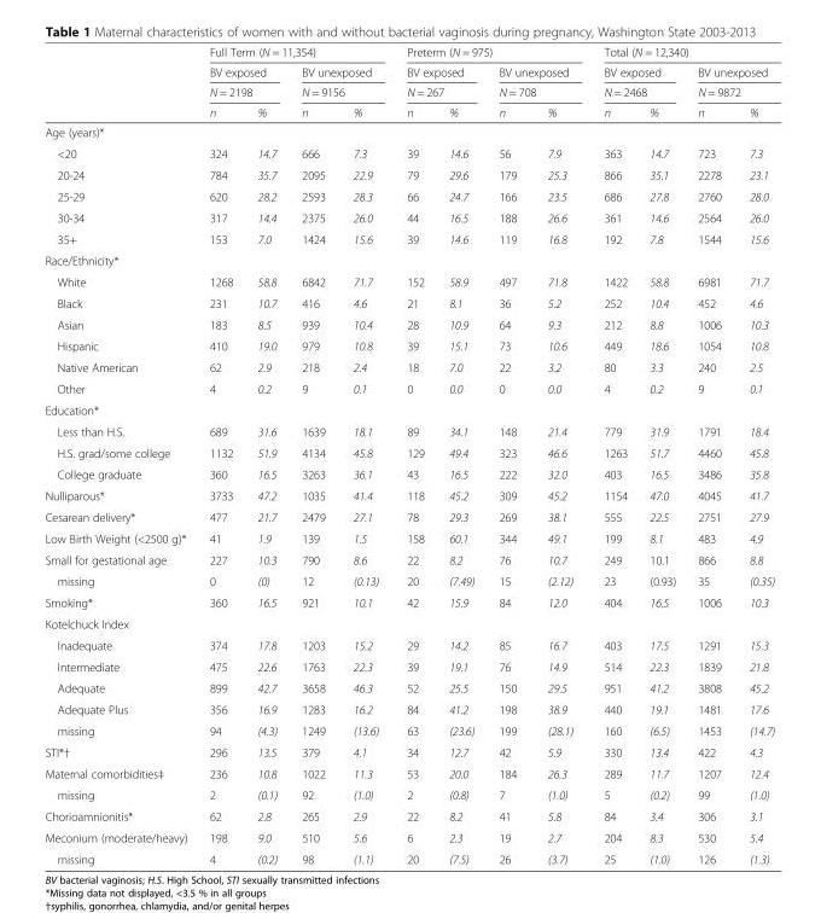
<table><thead><tr><td rowspan="4"></td><td colspan="4">Full Term (N = 11,354)</td><td colspan="4">Preterm (N = 975)</td><td colspan="4">Total (N = 12,340)</td></tr><tr><td rowspan="2" colspan="2">BV exposed N = 2198</td><td rowspan="2" colspan="2">BV unexposed N = 9156</td><td rowspan="2" colspan="2">BV exposed N = 267</td><td rowspan="2" colspan="2">BV unexposed N = 708</td><td rowspan="2" colspan="2">BV exposed N = 2468</td><td rowspan="2" colspan="2">BV unexposed N = 9872</td></tr><tr></tr><tr><td>n</td><td>%</td><td>n</td><td>%</td><td>n</td><td>%</td><td>n</td><td>%</td><td>n</td><td>%</td><td>n</td><td>%</td></tr></thead><tbody><tr><td colspan="13">Age (years)*</td></tr><tr><td>&lt;20</td><td>324</td><td>14.7</td><td>666</td><td>7.3</td><td>39</td><td>14.6</td><td>56</td><td>7.9</td><td>363</td><td>14.7</td><td>723</td><td>7.3</td></tr><tr><td>20-24</td><td>784</td><td>35.7</td><td>2095</td><td>22.9</td><td>79</td><td>29.6</td><td>179</td><td>25.3</td><td>866</td><td>35.1</td><td>2278</td><td>23.1</td></tr><tr><td>25-29</td><td>620</td><td>28.2</td><td>2593</td><td>28.3</td><td>66</td><td>24.7</td><td>166</td><td>23.5</td><td>686</td><td>27.8</td><td>2760</td><td>28.0</td></tr><tr><td>30-34</td><td>317</td><td>14.4</td><td>2375</td><td>26.0</td><td>44</td><td>16.5</td><td>188</td><td>26.6</td><td>361</td><td>14.6</td><td>2564</td><td>26.0</td></tr><tr><td>35+</td><td>153</td><td>7.0</td><td>1424</td><td>15.6</td><td>39</td><td>14.6</td><td>119</td><td>16.8</td><td>192</td><td>7.8</td><td>1544</td><td>15.6</td></tr><tr><td colspan="13">Race/Ethnicity*</td></tr><tr><td>White</td><td>1268</td><td>58.8</td><td>6842</td><td>71.7</td><td>152</td><td>58.9</td><td>497</td><td>71.8</td><td>1422</td><td>58.8</td><td>6981</td><td>71.7</td></tr><tr><td>Black</td><td>231</td><td>10.7</td><td>416</td><td>4.6</td><td>21</td><td>8.1</td><td>36</td><td>5.2</td><td>252</td><td>10.4</td><td>452</td><td>4.6</td></tr><tr><td>Asian</td><td>183</td><td>8.5</td><td>939</td><td>10.4</td><td>28</td><td>10.9</td><td>64</td><td>9.3</td><td>212</td><td>8.8</td><td>1006</td><td>10.3</td></tr><tr><td>Hispanic</td><td>410</td><td>19.0</td><td>979</td><td>10.8</td><td>39</td><td>15.1</td><td>73</td><td>10.6</td><td>449</td><td>18.6</td><td>1054</td><td>10.8</td></tr><tr><td>Native American</td><td>62</td><td>2.9</td><td>218</td><td>2.4</td><td>18</td><td>7.0</td><td>22</td><td>3.2</td><td>80</td><td>3.3</td><td>240</td><td>2.5</td></tr><tr><td>Other</td><td>4</td><td>0.2</td><td>9</td><td>0.1</td><td>0</td><td>0.0</td><td>0</td><td>0.0</td><td>4</td><td>0.2</td><td>9</td><td>0.1</td></tr><tr><td colspan="13">Education*</td></tr><tr><td>Less than H.S.</td><td>689</td><td>31.6</td><td>1639</td><td>18.1</td><td>89</td><td>34.1</td><td>148</td><td>21.4</td><td>779</td><td>31.9</td><td>1791</td><td>18.4</td></tr><tr><td>H.S. grad/some college</td><td>1132</td><td>51.9</td><td>4134</td><td>45.8</td><td>129</td><td>49.4</td><td>323</td><td>46.6</td><td>1263</td><td>51.7</td><td>4460</td><td>45.8</td></tr><tr><td>College graduate</td><td>360</td><td>16.5</td><td>3263</td><td>36.1</td><td>43</td><td>16.5</td><td>222</td><td>32.0</td><td>403</td><td>16.5</td><td>3486</td><td>35.8</td></tr><tr><td>Nulliparous*</td><td>3733</td><td>47.2</td><td>1035</td><td>41.4</td><td>118</td><td>45.2</td><td>309</td><td>45.2</td><td>1154</td><td>47.0</td><td>4045</td><td>41.7</td></tr><tr><td>Cesarean delivery*</td><td>477</td><td>21.7</td><td>2479</td><td>27.1</td><td>78</td><td>29.3</td><td>269</td><td>38.1</td><td>555</td><td>22.5</td><td>2751</td><td>27.9</td></tr><tr><td>Low Birth Weight (&lt;2500 g)*</td><td>41</td><td>1.9</td><td>139</td><td>1.5</td><td>158</td><td>60.1</td><td>344</td><td>49.1</td><td>199</td><td>8.1</td><td>483</td><td>4.9</td></tr><tr><td>Small for gestational age</td><td>227</td><td>10.3</td><td>790</td><td>8.6</td><td>22</td><td>8.2</td><td>76</td><td>10.7</td><td>249</td><td>10.1</td><td>866</td><td>8.8</td></tr><tr><td>missing</td><td>0</td><td>(0)</td><td>12</td><td>(0.13)</td><td>20</td><td>(7.49)</td><td>15</td><td>(2.12)</td><td>23</td><td>(0.93)</td><td>35</td><td>(0.35)</td></tr><tr><td>Smoking*</td><td>360</td><td>16.5</td><td>921</td><td>10.1</td><td>42</td><td>15.9</td><td>84</td><td>12.0</td><td>404</td><td>16.5</td><td>1006</td><td>10.3</td></tr><tr><td colspan="13">Kotelchuck Index</td></tr><tr><td>Inadequate</td><td>374</td><td>17.8</td><td>1203</td><td>15.2</td><td>29</td><td>14.2</td><td>85</td><td>16.7</td><td>403</td><td>17.5</td><td>1291</td><td>15.3</td></tr><tr><td>Intermediate</td><td>475</td><td>22.6</td><td>1763</td><td>22.3</td><td>39</td><td>19.1</td><td>76</td><td>14.9</td><td>514</td><td>22.3</td><td>1839</td><td>21.8</td></tr><tr><td>Adequate</td><td>899</td><td>42.7</td><td>3658</td><td>46.3</td><td>52</td><td>25.5</td><td>150</td><td>29.5</td><td>951</td><td>41.2</td><td>3808</td><td>45.2</td></tr><tr><td>Adequate Plus</td><td>356</td><td>16.9</td><td>1283</td><td>16.2</td><td>84</td><td>41.2</td><td>198</td><td>38.9</td><td>440</td><td>19.1</td><td>1481</td><td>17.6</td></tr><tr><td>missing</td><td>94</td><td>(4.3)</td><td>1249</td><td>(13.6)</td><td>63</td><td>(23.6)</td><td>199</td><td>(28.1)</td><td>160</td><td>(6.5)</td><td>1453</td><td>(14.7)</td></tr><tr><td>STI*†</td><td>296</td><td>13.5</td><td>379</td><td>4.1</td><td>34</td><td>12.7</td><td>42</td><td>5.9</td><td>330</td><td>13.4</td><td>422</td><td>4.3</td></tr><tr><td>Maternal comorbidities‡</td><td>236</td><td>10.8</td><td>1022</td><td>11.3</td><td>53</td><td>20.0</td><td>184</td><td>26.3</td><td>289</td><td>11.7</td><td>1207</td><td>12.4</td></tr><tr><td>missing</td><td>2</td><td>(0.1)</td><td>92</td><td>(1.0)</td><td>2</td><td>(0.8)</td><td>7</td><td>(1.0)</td><td>5</td><td>(0.2)</td><td>99</td><td>(1.0)</td></tr><tr><td>Chorioamnionitis*</td><td>62</td><td>2.8</td><td>265</td><td>2.9</td><td>22</td><td>8.2</td><td>41</td><td>5.8</td><td>84</td><td>3.4</td><td>306</td><td>3.1</td></tr><tr><td>Meconium (moderate/heavy)</td><td>198</td><td>9.0</td><td>510</td><td>5.6</td><td>6</td><td>2.3</td><td>19</td><td>2.7</td><td>204</td><td>8.3</td><td>530</td><td>5.4</td></tr><tr><td>missing</td><td>4</td><td>(0.2)</td><td>98</td><td>(1.1)</td><td>20</td><td>(7.5)</td><td>26</td><td>(3.7)</td><td>25</td><td>(1.0)</td><td>126</td><td>(1.3)</td></tr></tbody></table>